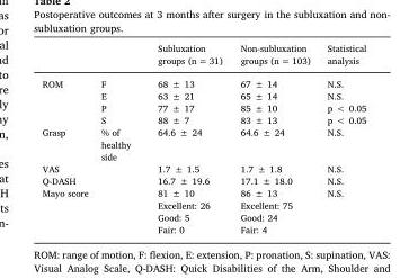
<table><thead><tr><td></td><td></td><td>Subluxation groups (n = 31)</td><td>Non-subluxation groups (n = 103)</td><td>Statistical analysis</td></tr></thead><tbody><tr><td rowspan="4">ROM</td><td>F</td><td>68 ± 13</td><td>67 ± 14</td><td>N.S.</td></tr><tr><td>E</td><td>63 ± 21</td><td>65 ± 14</td><td>N.S.</td></tr><tr><td>P</td><td>77 ± 17</td><td>85 ± 10</td><td>p &lt; 0.05</td></tr><tr><td>S</td><td>88 ± 7</td><td>83 ± 13</td><td>p &lt; 0.05</td></tr><tr><td>Grasp</td><td>% of healthy side</td><td>64.6 ± 24</td><td>64.6 ± 24</td><td>N.S.</td></tr><tr><td>VAS</td><td></td><td>1.7 ± 1.5</td><td>1.7 ± 1.8</td><td>N.S.</td></tr><tr><td>Q-DASH</td><td></td><td>16.7 ± 19.6</td><td>17.1 ± 18.0</td><td>N.S.</td></tr><tr><td rowspan="4">Mayo score</td><td rowspan="4"></td><td>81 ± 10</td><td>86 ± 13</td><td>N.S.</td></tr><tr><td>Excellent: 26</td><td>Excellent: 75</td><td rowspan="3"></td></tr><tr><td>Good: 5</td><td>Good: 24</td></tr><tr><td>Fair: 0</td><td>Fair: 4</td></tr></tbody></table>